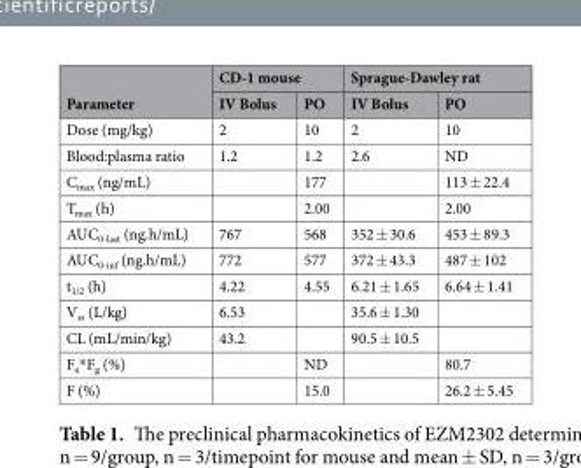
<table><thead><tr><td rowspan="2">Parameter</td><td colspan="2">CD-1 mouse</td><td colspan="2">Sprague-Dawley rat</td></tr><tr><td>IV Bolus</td><td>PO</td><td>IV Bolus</td><td>PO</td></tr></thead><tbody><tr><td>Dose (mg/kg)</td><td>2</td><td>10</td><td>2</td><td>10</td></tr><tr><td>Blood:plasma ratio</td><td>1.2</td><td>1.2</td><td>2.6</td><td>ND</td></tr><tr><td>C<sub>max</sub> (ng/mL)</td><td></td><td>177</td><td></td><td>113 ± 22.4</td></tr><tr><td>T<sub>max</sub> (h)</td><td></td><td>2.00</td><td></td><td>2.00</td></tr><tr><td>AUC<sub>0-last</sub> (ng.h/mL)</td><td>767</td><td>568</td><td>352 ± 30.6</td><td>453 ± 89.3</td></tr><tr><td>AUC<sub>0-inf</sub> (ng.h/mL)</td><td>772</td><td>577</td><td>372 ± 43.3</td><td>487 ± 102</td></tr><tr><td>t<sub>1/2</sub> (h)</td><td>4.22</td><td>4.55</td><td>6.21 ± 1.65</td><td>6.64 ± 1.41</td></tr><tr><td>V<sub>ss</sub> (L/kg)</td><td>6.53</td><td></td><td>35.6 ± 1.30</td><td></td></tr><tr><td>CL (mL/min/kg)</td><td>43.2</td><td></td><td>90.5 ± 10.5</td><td></td></tr><tr><td>F<sub>a</sub>*F<sub>g</sub> (%)</td><td></td><td>ND</td><td></td><td>80.7</td></tr><tr><td>F (%)</td><td></td><td>15.0</td><td></td><td>26.2 ± 5.45</td></tr></tbody></table>